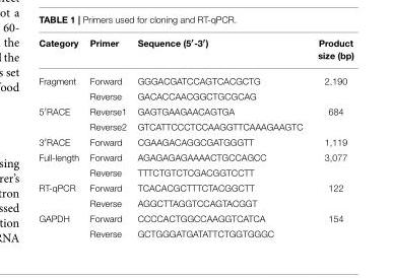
<table><thead><tr><td>Category</td><td>Primer</td><td>Sequence (5′-3′)</td><td>Product size (bp)</td></tr></thead><tbody><tr><td rowspan="2">Fragment</td><td>Forward</td><td>GGGACGATCCAGTCACGCTG</td><td>2,190</td></tr><tr><td>Reverse</td><td>GACACCAACGGCTGCGCAG</td><td></td></tr><tr><td rowspan="2">5′RACE</td><td>Reverse1</td><td>GAGTGAAGAACAGTGA</td><td>684</td></tr><tr><td>Reverse2</td><td>GTCATTCCCTCCAAGGTTCAAAGAAGTC</td><td></td></tr><tr><td>3′RACE</td><td>Forward</td><td>CGAAGACAGGCGATGGGTT</td><td>1,119</td></tr><tr><td rowspan="2">Full-length</td><td>Forward</td><td>AGAGAGAGAAAACTGCCAGCC</td><td>3,077</td></tr><tr><td>Reverse</td><td>TTTCTGTCTCGACGGTCCTT</td><td></td></tr><tr><td rowspan="2">RT-qPCR</td><td>Forward</td><td>TCACACGCTTTCTACGGCTT</td><td>122</td></tr><tr><td>Reverse</td><td>AGGCTTAGGTCCAGTACGGT</td><td></td></tr><tr><td rowspan="2">GAPDH</td><td>Forward</td><td>CCCCACTGGCCAAGGTCATCA</td><td>154</td></tr><tr><td>Reverse</td><td>GCTGGGATGATATTCTGGTGGGC</td><td></td></tr></tbody></table>